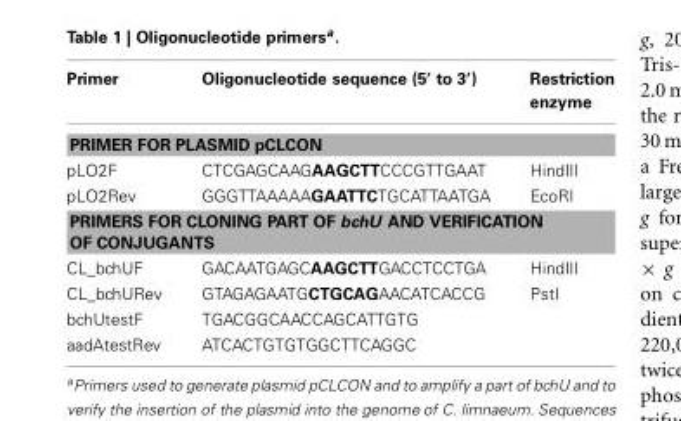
<table><thead><tr><td>Primer</td><td>Oligonucleotide sequence (5′ to 3′)</td><td>Restriction enzyme</td></tr></thead><tbody><tr><td colspan="3">PRIMER FOR PLASMID pCLCON</td></tr><tr><td>pLO2F</td><td>CTCGAGCAAGAAGCTTCCCGTTGAAT</td><td>HindIII</td></tr><tr><td>pLO2Rev</td><td>GGGTTAAAAAGAATTCTGCATTAATGA</td><td>EcoRI</td></tr><tr><td colspan="3">PRIMERS FOR CLONING PART OF bchU AND VERIFICATION OF CONJUGANTS</td></tr><tr><td>CL_bchUF</td><td>GACAATGAGCAAGCTTGACCTCCTGA</td><td>HindIII</td></tr><tr><td>CL_bchURev</td><td>GTAGAGAATGCTGCAGAACATCACCG</td><td>PstI</td></tr><tr><td>bchUtestF</td><td>TGACGGCAACCAGCATTGTG</td><td></td></tr><tr><td>aadAtestRev</td><td>ATCACTGTGTGGCTTCAGGC</td><td></td></tr></tbody></table>